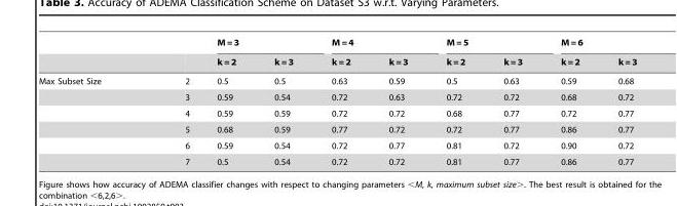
<table><thead><tr><td rowspan="2"></td><td rowspan="2"></td><td colspan="2">M = 3</td><td colspan="2">M = 4</td><td colspan="2">M = 5</td><td colspan="2">M = 6</td></tr><tr><td>k = 2</td><td>k = 3</td><td>k = 2</td><td>k = 3</td><td>k = 2</td><td>k = 3</td><td>k = 2</td><td>k = 3</td></tr></thead><tbody><tr><td rowspan="6">Max Subset Size</td><td>2</td><td>0.5</td><td>0.5</td><td>0.63</td><td>0.59</td><td>0.5</td><td>0.63</td><td>0.59</td><td>0.68</td></tr><tr><td>3</td><td>0.59</td><td>0.54</td><td>0.72</td><td>0.63</td><td>0.72</td><td>0.72</td><td>0.68</td><td>0.72</td></tr><tr><td>4</td><td>0.59</td><td>0.59</td><td>0.72</td><td>0.72</td><td>0.68</td><td>0.77</td><td>0.72</td><td>0.77</td></tr><tr><td>5</td><td>0.68</td><td>0.59</td><td>0.77</td><td>0.72</td><td>0.72</td><td>0.77</td><td>0.86</td><td>0.77</td></tr><tr><td>6</td><td>0.59</td><td>0.54</td><td>0.72</td><td>0.77</td><td>0.81</td><td>0.72</td><td>0.90</td><td>0.72</td></tr><tr><td>7</td><td>0.5</td><td>0.54</td><td>0.72</td><td>0.72</td><td>0.81</td><td>0.77</td><td>0.86</td><td>0.77</td></tr></tbody></table>